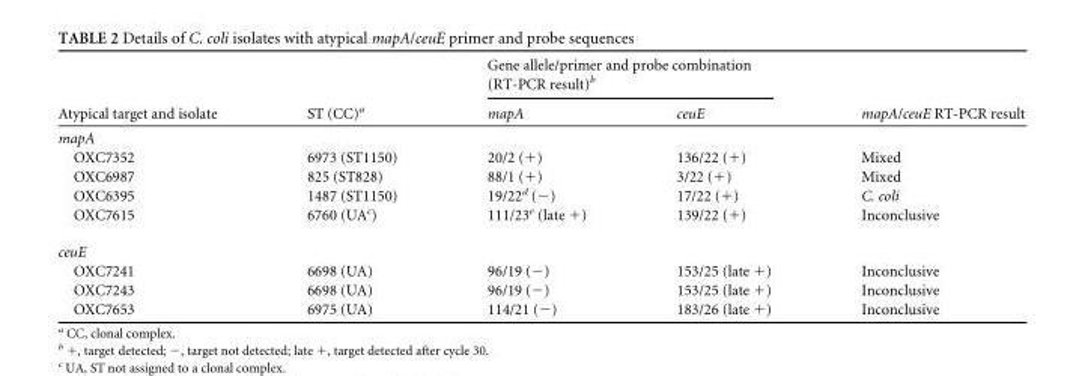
<table><thead><tr><td rowspan="2">Atypical target and isolate</td><td rowspan="2">ST (CC)<sup>a</sup></td><td colspan="2">Gene allele/primer and probe combination (RT-PCR result)<sup>b</sup></td><td rowspan="2">mapA/ceuE RT-PCR result</td></tr><tr><td>mapA</td><td>ceuE</td></tr></thead><tbody><tr><td colspan="5">mapA</td></tr><tr><td>OXC7352</td><td>6973 (ST1150)</td><td>20/2 (+)</td><td>136/22 (+)</td><td>Mixed</td></tr><tr><td>OXC6987</td><td>825 (ST828)</td><td>88/1 (+)</td><td>3/22 (+)</td><td>Mixed</td></tr><tr><td>OXC6395</td><td>1487 (ST1150)</td><td>19/22<sup>d</sup> (−)</td><td>17/22 (+)</td><td>C. coli</td></tr><tr><td>OXC7615</td><td>6760 (UA<sup>c</sup>)</td><td>111/23<sup>e</sup> (late +)</td><td>139/22 (+)</td><td>Inconclusive</td></tr><tr><td colspan="5">ceuE</td></tr><tr><td>OXC7241</td><td>6698 (UA)</td><td>96/19 (−)</td><td>153/25 (late +)</td><td>Inconclusive</td></tr><tr><td>OXC7243</td><td>6698 (UA)</td><td>96/19 (−)</td><td>153/25 (late +)</td><td>Inconclusive</td></tr><tr><td>OXC7653</td><td>6975 (UA)</td><td>114/21 (−)</td><td>183/26 (late +)</td><td>Inconclusive</td></tr></tbody></table>